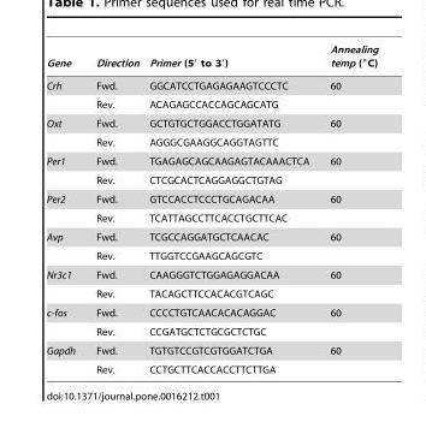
<table><thead><tr><td>Gene</td><td>Direction</td><td>Primer (5′ to 3′)</td><td>Annealing temp (°C)</td></tr></thead><tbody><tr><td rowspan="2">Crh</td><td>Fwd.</td><td>GGCATCCTGAGAGAAGTCCCTC</td><td>60</td></tr><tr><td>Rev.</td><td>ACAGAGCCACCAGCAGCATG</td><td></td></tr><tr><td rowspan="2">Oxt</td><td>Fwd.</td><td>GCTGTGCTGGACCTGGATATG</td><td>60</td></tr><tr><td>Rev.</td><td>AGGGCGAAGGCAGGTAGTTC</td><td></td></tr><tr><td rowspan="2">Per1</td><td>Fwd.</td><td>TGAGAGCAGCAAGAGTACAAACTCA</td><td>60</td></tr><tr><td>Rev.</td><td>CTCGCACTCAGGAGGCTGTAG</td><td></td></tr><tr><td rowspan="2">Per2</td><td>Fwd.</td><td>GTCCACCTCCCTGCAGACAA</td><td>60</td></tr><tr><td>Rev.</td><td>TCATTAGCCTTCACCTGCTTCAC</td><td></td></tr><tr><td rowspan="2">Avp</td><td>Fwd.</td><td>TCGCCAGGATGCTCAACAC</td><td>60</td></tr><tr><td>Rev.</td><td>TTGGTCCGAAGCAGCGTC</td><td></td></tr><tr><td rowspan="2">Nr3c1</td><td>Fwd.</td><td>CAAGGGTCTGGAGAGGACAA</td><td>60</td></tr><tr><td>Rev.</td><td>TACAGCTTCCACACGTCAGC</td><td></td></tr><tr><td rowspan="2">c-fos</td><td>Fwd.</td><td>CCCCTGTCAACACACAGGAC</td><td>60</td></tr><tr><td>Rev.</td><td>CCGATGCTCTGCGCTCTGC</td><td></td></tr><tr><td rowspan="2">Gapdh</td><td>Fwd.</td><td>TGTGTCCGTCGTGGATCTGA</td><td>60</td></tr><tr><td>Rev.</td><td>CCTGCTTCACCACCTTCTTGA</td><td></td></tr></tbody></table>